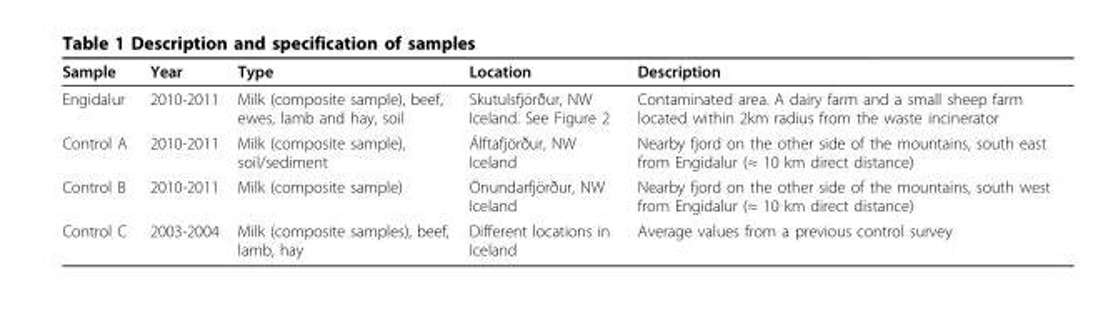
<table><tbody><tr><td>Sample</td><td>Year</td><td>Type</td><td>Location</td><td>Description</td></tr><tr><td>Engidalur</td><td>2010-2011</td><td>Milk (composite sample), beef, ewes, lamb and hay, soil</td><td>Skutulsfjörður, NW Iceland. See Figure 2</td><td>Contaminated area. A dairy farm and a small sheep farm located within 2km radius from the waste incinerator</td></tr><tr><td>Control A</td><td>2010-2011</td><td>Milk (composite sample), soil/sediment</td><td>Álftafjörður, NW Iceland</td><td>Nearby fjord on the other side of the mountains, south east from Engidalur (≈ 10 km direct distance)</td></tr><tr><td>Control B</td><td>2010-2011</td><td>Milk (composite sample)</td><td>Önundarfjörður, NW Iceland</td><td>Nearby fjord on the other side of the mountains, south west from Engidalur (≈ 10 km direct distance)</td></tr><tr><td>Control C</td><td>2003-2004</td><td>Milk (composite samples), beef, lamb, hay</td><td>Different locations in Iceland</td><td>Average values from a previous control survey</td></tr></tbody></table>